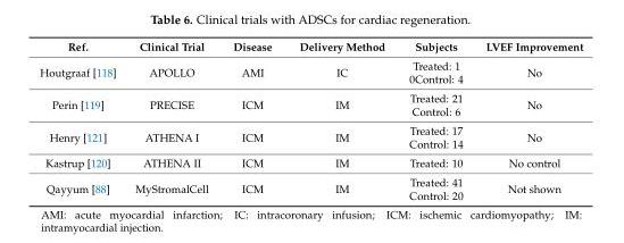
<table><thead><tr><td>Ref.</td><td>Clinical Trial</td><td>Disease</td><td>Delivery Method</td><td>Subjects</td><td>LVEF Improvement</td></tr></thead><tbody><tr><td>Houtgraaf [118]</td><td>APOLLO</td><td>AMI</td><td>IC</td><td>Treated: 1 0Control: 4</td><td>No</td></tr><tr><td>Perin [119]</td><td>PRECISE</td><td>ICM</td><td>IM</td><td>Treated: 21 Control: 6</td><td>No</td></tr><tr><td>Henry [121]</td><td>ATHENA I</td><td>ICM</td><td>IM</td><td>Treated: 17 Control: 14</td><td>No</td></tr><tr><td>Kastrup [120]</td><td>ATHENA II</td><td>ICM</td><td>IM</td><td>Treated: 10</td><td>No control</td></tr><tr><td>Qayyum [88]</td><td>MyStromalCell</td><td>ICM</td><td>IM</td><td>Treated: 41 Control: 20</td><td>Not shown</td></tr></tbody></table>